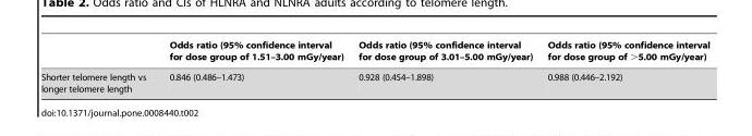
<table><thead><tr><td></td><td>Odds ratio (95% confidence interval for dose group of 1.51–3.00 mGy/year)</td><td>Odds ratio (95% confidence interval for dose group of 3.01–5.00 mGy/year)</td><td>Odds ratio (95% confidence interval for dose group of &gt;5.00 mGy/year)</td></tr></thead><tbody><tr><td>Shorter telomere length vs longer telomere length</td><td>0.846 (0.486–1.473)</td><td>0.928 (0.454–1.898)</td><td>0.988 (0.446–2.192)</td></tr></tbody></table>